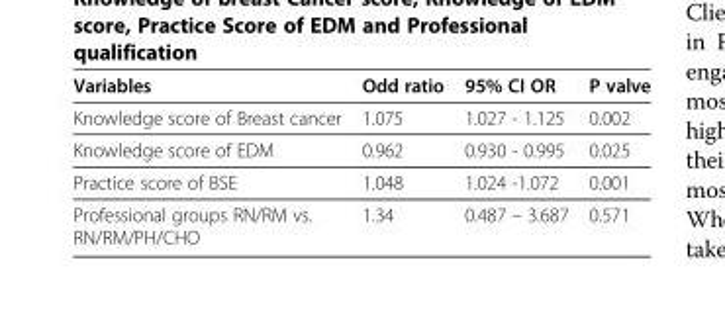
<table><thead><tr><td>Variables</td><td>Odd ratio</td><td>95% CI OR</td><td>P valve</td></tr></thead><tbody><tr><td>Knowledge score of Breast cancer</td><td>1.075</td><td>1.027 - 1.125</td><td>0.002</td></tr><tr><td>Knowledge score of EDM</td><td>0.962</td><td>0.930 - 0.995</td><td>0.025</td></tr><tr><td>Practice score of BSE</td><td>1.048</td><td>1.024 -1.072</td><td>0.001</td></tr><tr><td>Professional groups RN/RM vs. RN/RM/PH/CHO</td><td>1.34</td><td>0.487 – 3.687</td><td>0.571</td></tr></tbody></table>